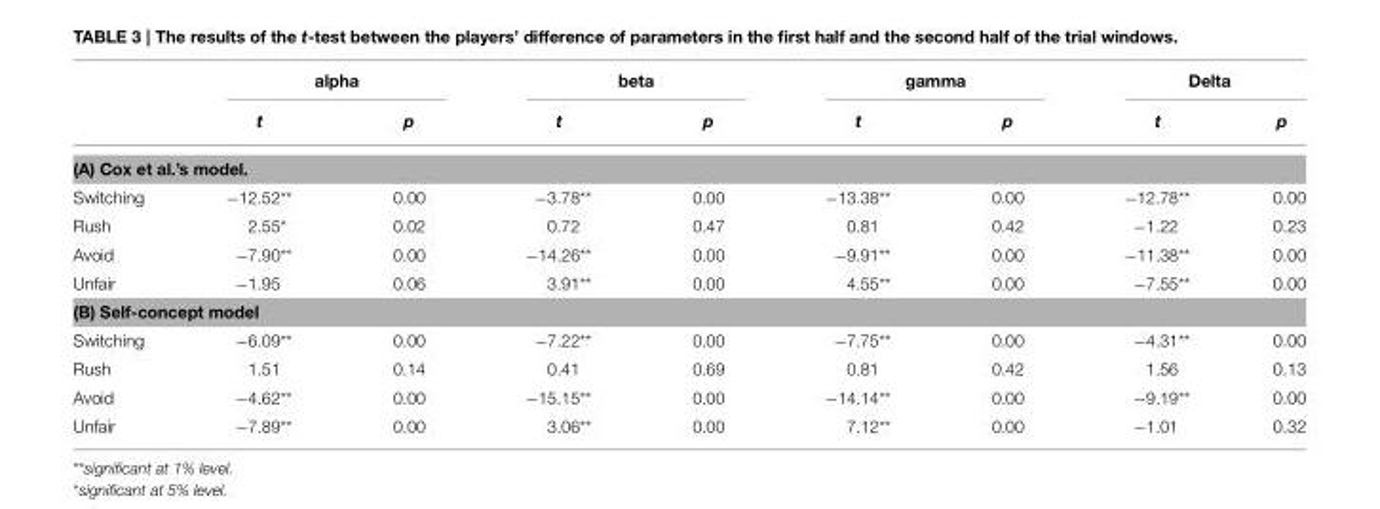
<table><thead><tr><td rowspan="2"></td><td colspan="2">alpha</td><td colspan="2">beta</td><td colspan="2">gamma</td><td colspan="2">Delta</td></tr><tr><td>t</td><td>p</td><td>t</td><td>p</td><td>t</td><td>p</td><td>t</td><td>p</td></tr></thead><tbody><tr><td colspan="9">(A) Cox et al.’s model.</td></tr><tr><td>Switching</td><td>−12.52**</td><td>0.00</td><td>−3.78**</td><td>0.00</td><td>−13.38**</td><td>0.00</td><td>−12.78**</td><td>0.00</td></tr><tr><td>Rush</td><td>2.55*</td><td>0.02</td><td>0.72</td><td>0.47</td><td>0.81</td><td>0.42</td><td>−1.22</td><td>0.23</td></tr><tr><td>Avoid</td><td>−7.90**</td><td>0.00</td><td>−14.26**</td><td>0.00</td><td>−9.91**</td><td>0.00</td><td>−11.38**</td><td>0.00</td></tr><tr><td>Unfair</td><td>−1.95</td><td>0.06</td><td>3.91**</td><td>0.00</td><td>4.55**</td><td>0.00</td><td>−7.55**</td><td>0.00</td></tr><tr><td colspan="9">(B) Self-concept model</td></tr><tr><td>Switching</td><td>−6.09**</td><td>0.00</td><td>−7.22**</td><td>0.00</td><td>−7.75**</td><td>0.00</td><td>−4.31**</td><td>0.00</td></tr><tr><td>Rush</td><td>1.51</td><td>0.14</td><td>0.41</td><td>0.69</td><td>0.81</td><td>0.42</td><td>1.56</td><td>0.13</td></tr><tr><td>Avoid</td><td>−4.62**</td><td>0.00</td><td>−15.15**</td><td>0.00</td><td>−14.14**</td><td>0.00</td><td>−9.19**</td><td>0.00</td></tr><tr><td>Unfair</td><td>−7.89**</td><td>0.00</td><td>3.06**</td><td>0.00</td><td>7.12**</td><td>0.00</td><td>−1.01</td><td>0.32</td></tr></tbody></table>